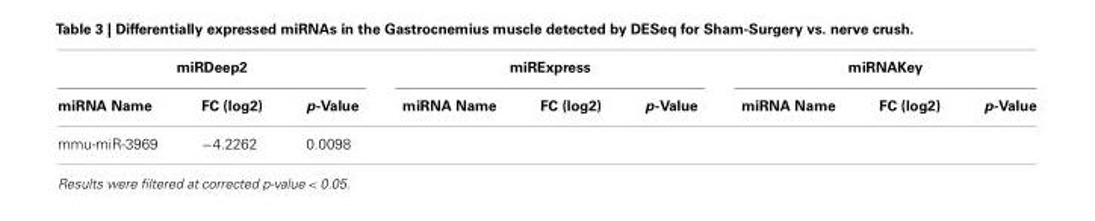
<table><thead><tr><td colspan="3">miRDeep2</td><td colspan="3">miRExpress</td><td colspan="3">miRNAKey</td></tr><tr><td>miRNA Name</td><td>FC (log2)</td><td>p-Value</td><td>miRNA Name</td><td>FC (log2)</td><td>p-Value</td><td>miRNA Name</td><td>FC (log2)</td><td>p-Value</td></tr></thead><tbody><tr><td>mmu-miR-3969</td><td>−4.2262</td><td>0.0098</td><td></td><td></td><td></td><td></td><td></td><td></td></tr></tbody></table>